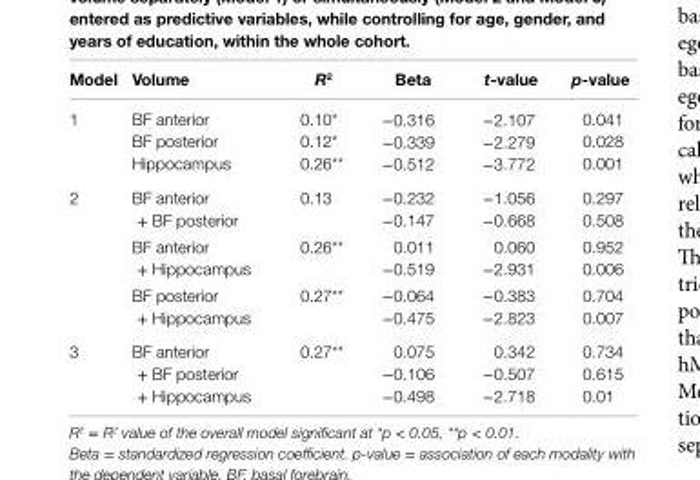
<table><thead><tr><td>Model</td><td>Volume</td><td>R<sup>2</sup></td><td>Beta</td><td>t-value</td><td>p-value</td></tr></thead><tbody><tr><td>1</td><td>BF anterior BF posterior Hippocampus</td><td>0.10* 0.12* 0.26**</td><td>−0.316 −0.339 −0.512</td><td>−2.107 −2.279 −3.772</td><td>0.041 0.028 0.001</td></tr><tr><td rowspan="3">2</td><td>BF anterior + BF posterior</td><td>0.13</td><td>−0.232 −0.147</td><td>−1.056 −0.668</td><td>0.297 0.508</td></tr><tr><td>BF anterior + Hippocampus</td><td>0.26**</td><td>0.011 −0.519</td><td>0.060 −2.931</td><td>0.952 0.006</td></tr><tr><td>BF posterior + Hippocampus</td><td>0.27**</td><td>−0.064 −0.475</td><td>−0.383 −2.823</td><td>0.704 0.007</td></tr><tr><td>3</td><td>BF anterior + BF posterior + Hippocampus</td><td>0.27**</td><td>0.075 −0.106 −0.498</td><td>0.342 −0.507 −2.718</td><td>0.734 0.615 0.01</td></tr></tbody></table>